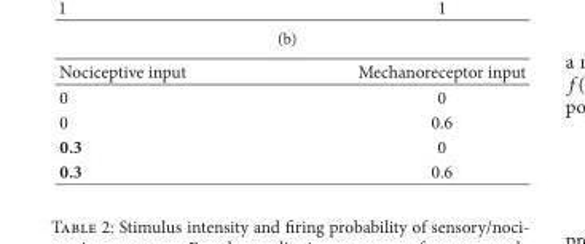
<table><thead><tr><td>Nociceptive input</td><td>Mechanoreceptor input</td></tr></thead><tbody><tr><td>0</td><td>0</td></tr><tr><td>0</td><td>0.6</td></tr><tr><td>0.3</td><td>0</td></tr><tr><td>0.3</td><td>0.6</td></tr></tbody></table>